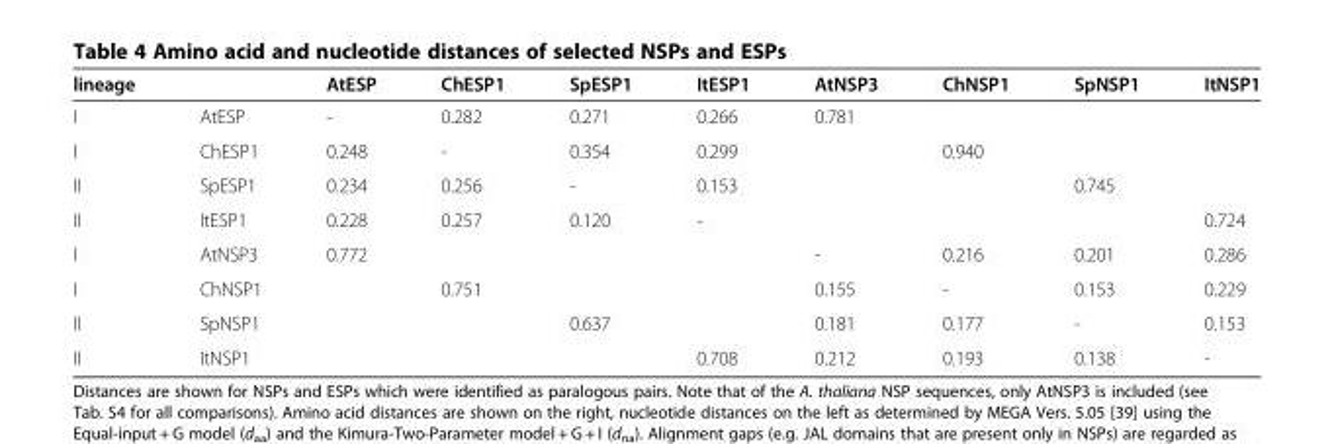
<table><thead><tr><td>lineage</td><td></td><td>AtESP</td><td>ChESP1</td><td>SpESP1</td><td>ItESP1</td><td>AtNSP3</td><td>ChNSP1</td><td>SpNSP1</td><td>ItNSP1</td></tr></thead><tbody><tr><td>I</td><td>AtESP</td><td>-</td><td>0.282</td><td>0.271</td><td>0.266</td><td>0.781</td><td></td><td></td><td></td></tr><tr><td>I</td><td>ChESP1</td><td>0.248</td><td>-</td><td>0.354</td><td>0.299</td><td></td><td>0.940</td><td></td><td></td></tr><tr><td>II</td><td>SpESP1</td><td>0.234</td><td>0.256</td><td>-</td><td>0.153</td><td></td><td></td><td>0.745</td><td></td></tr><tr><td>II</td><td>ItESP1</td><td>0.228</td><td>0.257</td><td>0.120</td><td>-</td><td></td><td></td><td></td><td>0.724</td></tr><tr><td>I</td><td>AtNSP3</td><td>0.772</td><td></td><td></td><td></td><td>-</td><td>0.216</td><td>0.201</td><td>0.286</td></tr><tr><td>I</td><td>ChNSP1</td><td></td><td>0.751</td><td></td><td></td><td>0.155</td><td>-</td><td>0.153</td><td>0.229</td></tr><tr><td>II</td><td>SpNSP1</td><td></td><td></td><td>0.637</td><td></td><td>0.181</td><td>0.177</td><td>-</td><td>0.153</td></tr><tr><td>II</td><td>ItNSP1</td><td></td><td></td><td></td><td>0.708</td><td>0.212</td><td>0.193</td><td>0.138</td><td>-</td></tr></tbody></table>